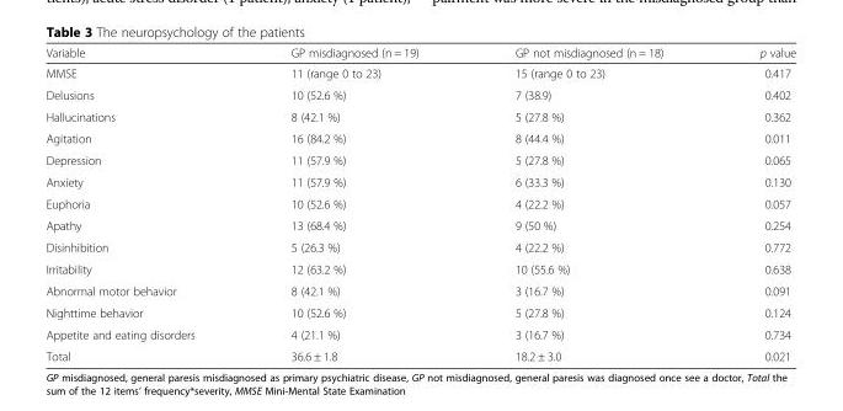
<table><thead><tr><td>Variable</td><td>GP misdiagnosed (n = 19)</td><td>GP not misdiagnosed (n = 18)</td><td>p value</td></tr></thead><tbody><tr><td>MMSE</td><td>11 (range 0 to 23)</td><td>15 (range 0 to 23)</td><td>0.417</td></tr><tr><td>Delusions</td><td>10 (52.6 %)</td><td>7 (38.9)</td><td>0.402</td></tr><tr><td>Hallucinations</td><td>8 (42.1 %)</td><td>5 (27.8 %)</td><td>0.362</td></tr><tr><td>Agitation</td><td>16 (84.2 %)</td><td>8 (44.4 %)</td><td>0.011</td></tr><tr><td>Depression</td><td>11 (57.9 %)</td><td>5 (27.8 %)</td><td>0.065</td></tr><tr><td>Anxiety</td><td>11 (57.9 %)</td><td>6 (33.3 %)</td><td>0.130</td></tr><tr><td>Euphoria</td><td>10 (52.6 %)</td><td>4 (22.2 %)</td><td>0.057</td></tr><tr><td>Apathy</td><td>13 (68.4 %)</td><td>9 (50 %)</td><td>0.254</td></tr><tr><td>Disinhibition</td><td>5 (26.3 %)</td><td>4 (22.2 %)</td><td>0.772</td></tr><tr><td>Irritability</td><td>12 (63.2 %)</td><td>10 (55.6 %)</td><td>0.638</td></tr><tr><td>Abnormal motor behavior</td><td>8 (42.1 %)</td><td>3 (16.7 %)</td><td>0.091</td></tr><tr><td>Nighttime behavior</td><td>10 (52.6 %)</td><td>5 (27.8 %)</td><td>0.124</td></tr><tr><td>Appetite and eating disorders</td><td>4 (21.1 %)</td><td>3 (16.7 %)</td><td>0.734</td></tr><tr><td>Total</td><td>36.6 ± 1.8</td><td>18.2 ± 3.0</td><td>0.021</td></tr></tbody></table>